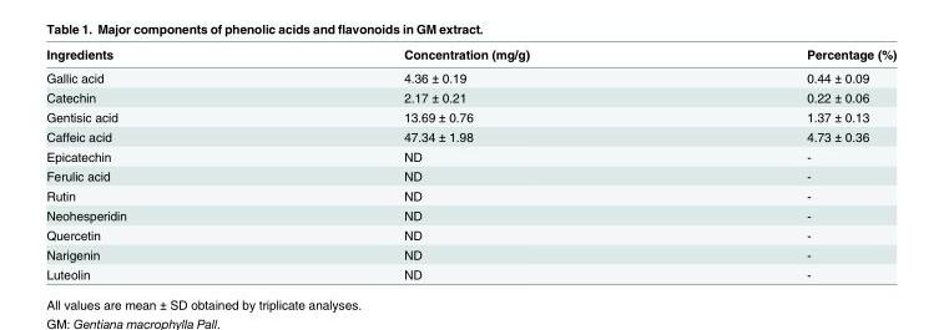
<table><thead><tr><td>Ingredients</td><td>Concentration (mg/g)</td><td>Percentage (%)</td></tr></thead><tbody><tr><td>Gallic acid</td><td>4.36 ± 0.19</td><td>0.44 ± 0.09</td></tr><tr><td>Catechin</td><td>2.17 ± 0.21</td><td>0.22 ± 0.06</td></tr><tr><td>Gentisic acid</td><td>13.69 ± 0.76</td><td>1.37 ± 0.13</td></tr><tr><td>Caffeic acid</td><td>47.34 ± 1.98</td><td>4.73 ± 0.36</td></tr><tr><td>Epicatechin</td><td>ND</td><td>-</td></tr><tr><td>Ferulic acid</td><td>ND</td><td>-</td></tr><tr><td>Rutin</td><td>ND</td><td>-</td></tr><tr><td>Neohesperidin</td><td>ND</td><td>-</td></tr><tr><td>Quercetin</td><td>ND</td><td>-</td></tr><tr><td>Narigenin</td><td>ND</td><td>-</td></tr><tr><td>Luteolin</td><td>ND</td><td>-</td></tr></tbody></table>